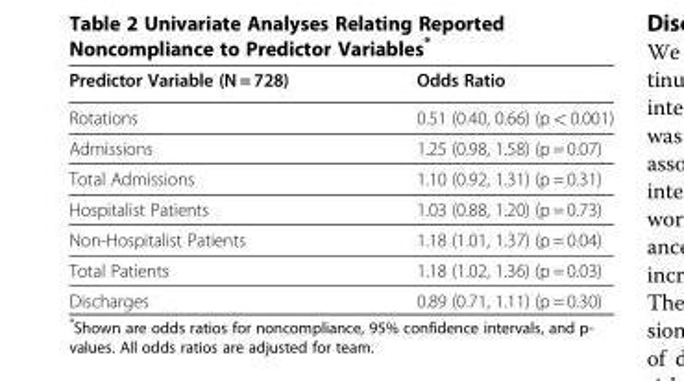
<table><thead><tr><td>Predictor Variable (N = 728)</td><td>Odds Ratio</td></tr></thead><tbody><tr><td>Rotations</td><td>0.51 (0.40, 0.66) (p &lt; 0.001)</td></tr><tr><td>Admissions</td><td>1.25 (0.98, 1.58) (p = 0.07)</td></tr><tr><td>Total Admissions</td><td>1.10 (0.92, 1.31) (p = 0.31)</td></tr><tr><td>Hospitalist Patients</td><td>1.03 (0.88, 1.20) (p = 0.73)</td></tr><tr><td>Non-Hospitalist Patients</td><td>1.18 (1.01, 1.37) (p = 0.04)</td></tr><tr><td>Total Patients</td><td>1.18 (1.02, 1.36) (p = 0.03)</td></tr><tr><td>Discharges</td><td>0.89 (0.71, 1.11) (p = 0.30)</td></tr></tbody></table>